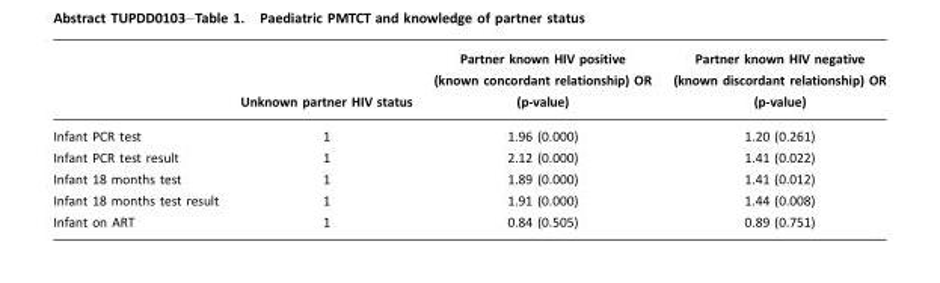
<table><thead><tr><td></td><td>Unknown partner HIV status</td><td>Partner known HIV positive (known concordant relationship) OR (p-value)</td><td>Partner known HIV negative (known discordant relationship) OR (p-value)</td></tr></thead><tbody><tr><td>Infant PCR test</td><td>1</td><td>1.96 (0.000)</td><td>1.20 (0.261)</td></tr><tr><td>Infant PCR test result</td><td>1</td><td>2.12 (0.000)</td><td>1.41 (0.022)</td></tr><tr><td>Infant 18 months test</td><td>1</td><td>1.89 (0.000)</td><td>1.41 (0.012)</td></tr><tr><td>Infant 18 months test result</td><td>1</td><td>1.91 (0.000)</td><td>1.44 (0.008)</td></tr><tr><td>Infant on ART</td><td>1</td><td>0.84 (0.505)</td><td>0.89 (0.751)</td></tr></tbody></table>